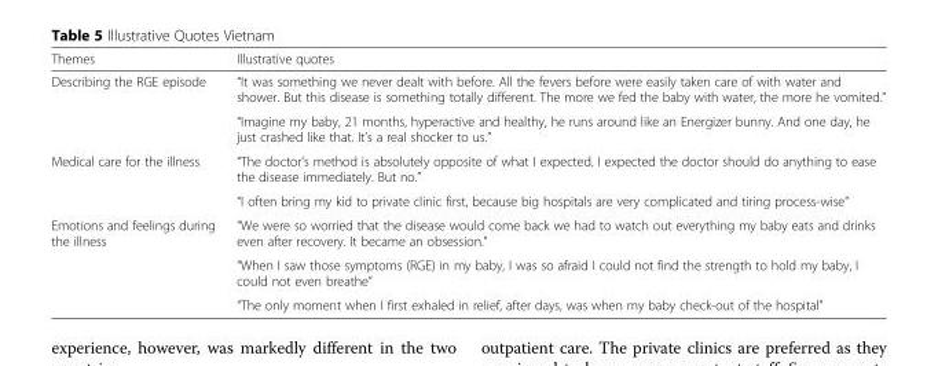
<table><thead><tr><td>Themes</td><td>Illustrative quotes</td></tr></thead><tbody><tr><td rowspan="2">Describing the RGE episode</td><td>“It was something we never dealt with before. All the fevers before were easily taken care of with water and shower. But this disease is something totally different. The more we fed the baby with water, the more he vomited.”</td></tr><tr><td>“Imagine my baby, 21 months, hyperactive and healthy, he runs around like an Energizer bunny. And one day, he just crashed like that. It’s a real shocker to us.”</td></tr><tr><td rowspan="2">Medical care for the illness</td><td>“The doctor’s method is absolutely opposite of what I expected. I expected the doctor should do anything to ease the disease immediately. But no.”</td></tr><tr><td>“I often bring my kid to private clinic first, because big hospitals are very complicated and tiring process-wise”</td></tr><tr><td rowspan="3">Emotions and feelings during the illness</td><td>“We were so worried that the disease would come back we had to watch out everything my baby eats and drinks even after recovery. It became an obsession.”</td></tr><tr><td>“When I saw those symptoms (RGE) in my baby, I was so afraid I could not find the strength to hold my baby, I could not even breathe”</td></tr><tr><td>“The only moment when I first exhaled in relief, after days, was when my baby check-out of the hospital”</td></tr></tbody></table>